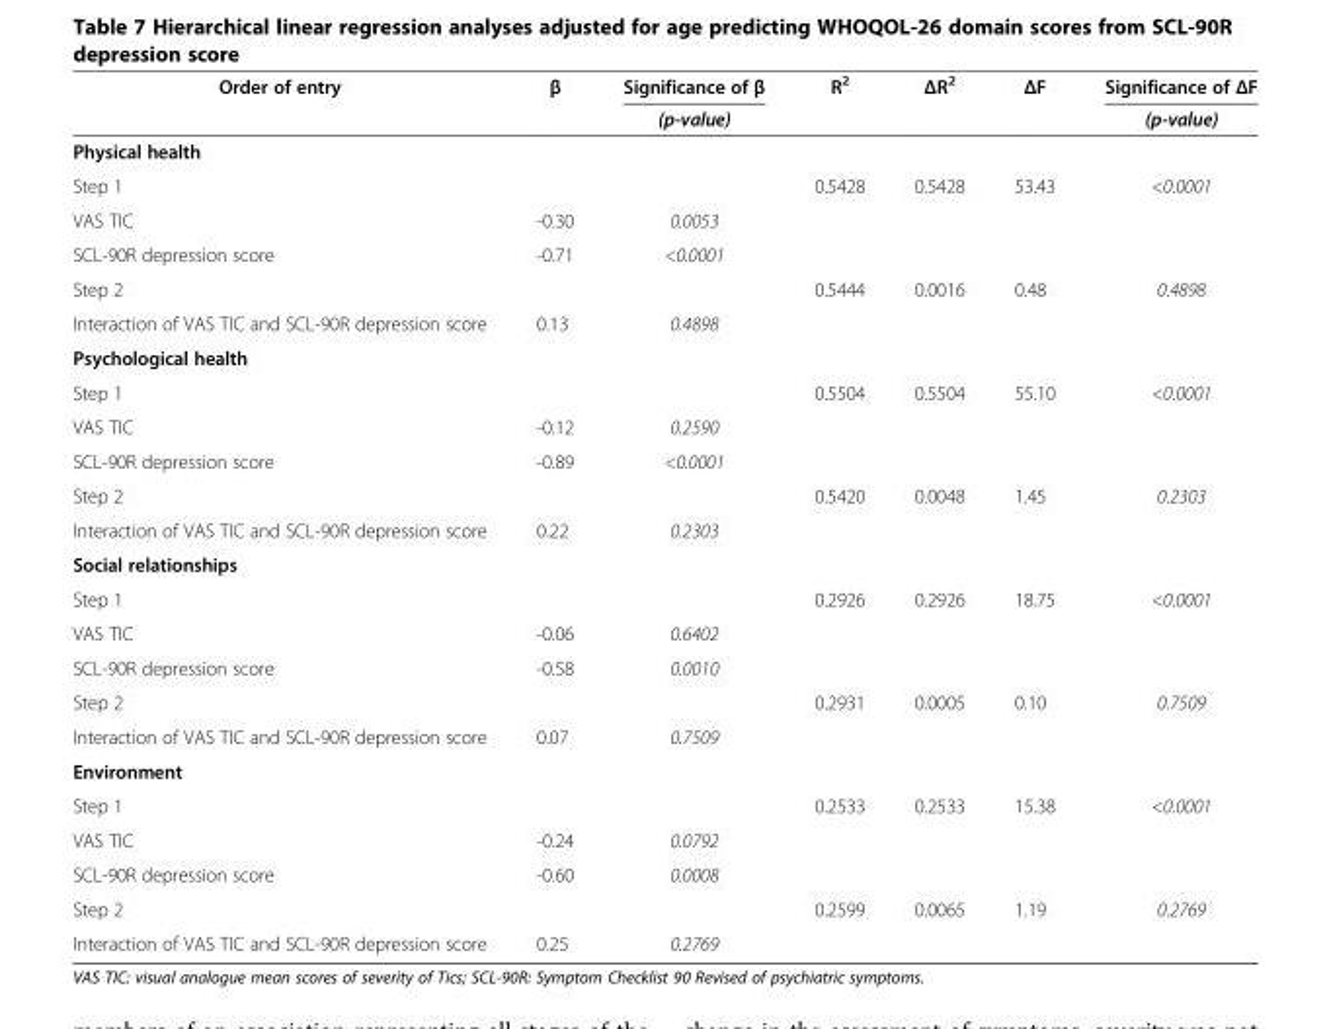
<table><thead><tr><td rowspan="2">Order of entry</td><td rowspan="2">β</td><td rowspan="2">Significance of β (p-value)</td><td rowspan="2">R<sup>2</sup></td><td rowspan="2">ΔR<sup>2</sup></td><td rowspan="2">ΔF</td><td rowspan="2">Significance of ΔF (p-value)</td></tr><tr></tr></thead><tbody><tr><td colspan="7">Physical health</td></tr><tr><td>Step 1</td><td></td><td></td><td>0.5428</td><td>0.5428</td><td>53.43</td><td>&lt;0.0001</td></tr><tr><td>VAS TIC</td><td>-0.30</td><td>0.0053</td><td></td><td></td><td></td><td></td></tr><tr><td>SCL-90R depression score</td><td>-0.71</td><td>&lt;0.0001</td><td></td><td></td><td></td><td></td></tr><tr><td>Step 2</td><td></td><td></td><td>0.5444</td><td>0.0016</td><td>0.48</td><td>0.4898</td></tr><tr><td>Interaction of VAS TIC and SCL-90R depression score</td><td>0.13</td><td>0.4898</td><td></td><td></td><td></td><td></td></tr><tr><td colspan="7">Psychological health</td></tr><tr><td>Step 1</td><td></td><td></td><td>0.5504</td><td>0.5504</td><td>55.10</td><td>&lt;0.0001</td></tr><tr><td>VAS TIC</td><td>-0.12</td><td>0.2590</td><td></td><td></td><td></td><td></td></tr><tr><td>SCL-90R depression score</td><td>-0.89</td><td>&lt;0.0001</td><td></td><td></td><td></td><td></td></tr><tr><td>Step 2</td><td></td><td></td><td>0.5420</td><td>0.0048</td><td>1.45</td><td>0.2303</td></tr><tr><td>Interaction of VAS TIC and SCL-90R depression score</td><td>0.22</td><td>0.2303</td><td></td><td></td><td></td><td></td></tr><tr><td colspan="7">Social relationships</td></tr><tr><td>Step 1</td><td></td><td></td><td>0.2926</td><td>0.2926</td><td>18.75</td><td>&lt;0.0001</td></tr><tr><td>VAS TIC</td><td>-0.06</td><td>0.6402</td><td></td><td></td><td></td><td></td></tr><tr><td>SCL-90R depression score</td><td>-0.58</td><td>0.0010</td><td></td><td></td><td></td><td></td></tr><tr><td>Step 2</td><td></td><td></td><td>0.2931</td><td>0.0005</td><td>0.10</td><td>0.7509</td></tr><tr><td>Interaction of VAS TIC and SCL-90R depression score</td><td>0.07</td><td>0.7509</td><td></td><td></td><td></td><td></td></tr><tr><td colspan="7">Environment</td></tr><tr><td>Step 1</td><td></td><td></td><td>0.2533</td><td>0.2533</td><td>15.38</td><td>&lt;0.0001</td></tr><tr><td>VAS TIC</td><td>-0.24</td><td>0.0792</td><td></td><td></td><td></td><td></td></tr><tr><td>SCL-90R depression score</td><td>-0.60</td><td>0.0008</td><td></td><td></td><td></td><td></td></tr><tr><td>Step 2</td><td></td><td></td><td>0.2599</td><td>0.0065</td><td>1.19</td><td>0.2769</td></tr><tr><td>Interaction of VAS TIC and SCL-90R depression score</td><td>0.25</td><td>0.2769</td><td></td><td></td><td></td><td></td></tr></tbody></table>